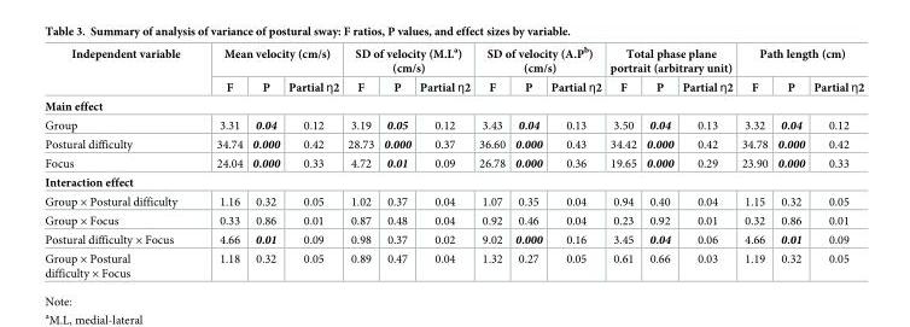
<table><thead><tr><td rowspan="2">Independent variable</td><td colspan="3">Mean velocity (cm/s)</td><td colspan="3">SD of velocity (M.L<sup>a</sup>) (cm/s)</td><td colspan="3">SD of velocity (A.P<sup>b</sup>) (cm/s)</td><td colspan="3">Total phase plane portrait (arbitrary unit)</td><td colspan="3">Path length (cm)</td></tr><tr><td>F</td><td>P</td><td>Partial ƞ2</td><td>F</td><td>P</td><td>Partial ƞ2</td><td>F</td><td>P</td><td>Partial ƞ2</td><td>F</td><td>P</td><td>Partial ƞ2</td><td>F</td><td>P</td><td>Partial ƞ2</td></tr></thead><tbody><tr><td colspan="16">Main effect</td></tr><tr><td>Group</td><td>3.31</td><td>0.04</td><td>0.12</td><td>3.19</td><td>0.05</td><td>0.12</td><td>3.43</td><td>0.04</td><td>0.13</td><td>3.50</td><td>0.04</td><td>0.13</td><td>3.32</td><td>0.04</td><td>0.12</td></tr><tr><td>Postural difficulty</td><td>34.74</td><td>0.000</td><td>0.42</td><td>28.73</td><td>0.000</td><td>0.37</td><td>36.60</td><td>0.000</td><td>0.43</td><td>34.42</td><td>0.000</td><td>0.42</td><td>34.78</td><td>0.000</td><td>0.42</td></tr><tr><td>Focus</td><td>24.04</td><td>0.000</td><td>0.33</td><td>4.72</td><td>0.01</td><td>0.09</td><td>26.78</td><td>0.000</td><td>0.36</td><td>19.65</td><td>0.000</td><td>0.29</td><td>23.90</td><td>0.000</td><td>0.33</td></tr><tr><td colspan="16">Interaction effect</td></tr><tr><td>Group × Postural difficulty</td><td>1.16</td><td>0.32</td><td>0.05</td><td>1.02</td><td>0.37</td><td>0.04</td><td>1.07</td><td>0.35</td><td>0.04</td><td>0.94</td><td>0.40</td><td>0.04</td><td>1.15</td><td>0.32</td><td>0.05</td></tr><tr><td>Group × Focus</td><td>0.33</td><td>0.86</td><td>0.01</td><td>0.87</td><td>0.48</td><td>0.04</td><td>0.92</td><td>0.46</td><td>0.04</td><td>0.23</td><td>0.92</td><td>0.01</td><td>0.32</td><td>0.86</td><td>0.01</td></tr><tr><td>Postural difficulty × Focus</td><td>4.66</td><td>0.01</td><td>0.09</td><td>0.98</td><td>0.37</td><td>0.02</td><td>9.02</td><td>0.000</td><td>0.16</td><td>3.45</td><td>0.04</td><td>0.06</td><td>4.66</td><td>0.01</td><td>0.09</td></tr><tr><td>Group × Postural difficulty × Focus</td><td>1.18</td><td>0.32</td><td>0.05</td><td>0.89</td><td>0.47</td><td>0.04</td><td>1.32</td><td>0.27</td><td>0.05</td><td>0.61</td><td>0.66</td><td>0.03</td><td>1.19</td><td>0.32</td><td>0.05</td></tr></tbody></table>